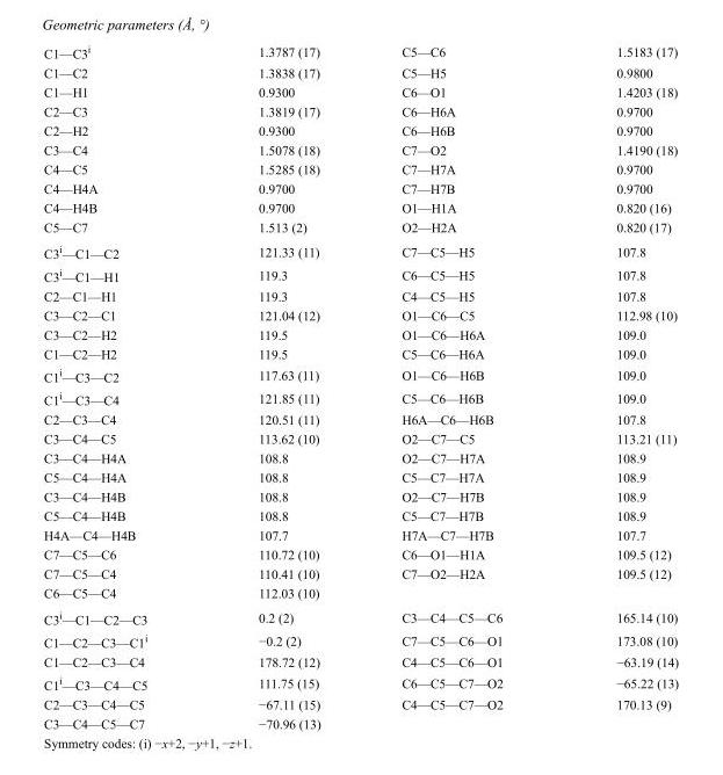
<table><tbody><tr><td>C1—C3<sup>i</sup></td><td>1.3787 (17)</td><td>C5—C6</td><td>1.5183 (17)</td></tr><tr><td>C1—C2</td><td>1.3838 (17)</td><td>C5—H5</td><td>0.9800</td></tr><tr><td>C1—H1</td><td>0.9300</td><td>C6—O1</td><td>1.4203 (18)</td></tr><tr><td>C2—C3</td><td>1.3819 (17)</td><td>C6—H6A</td><td>0.9700</td></tr><tr><td>C2—H2</td><td>0.9300</td><td>C6—H6B</td><td>0.9700</td></tr><tr><td>C3—C4</td><td>1.5078 (18)</td><td>C7—O2</td><td>1.4190 (18)</td></tr><tr><td>C4—C5</td><td>1.5285 (18)</td><td>C7—H7A</td><td>0.9700</td></tr><tr><td>C4—H4A</td><td>0.9700</td><td>C7—H7B</td><td>0.9700</td></tr><tr><td>C4—H4B</td><td>0.9700</td><td>O1—H1A</td><td>0.820 (16)</td></tr><tr><td>C5—C7</td><td>1.513 (2)</td><td>O2—H2A</td><td>0.820 (17)</td></tr><tr><td>C3<sup>i</sup>—C1—C2</td><td>121.33 (11)</td><td>C7—C5—H5</td><td>107.8</td></tr><tr><td>C3<sup>i</sup>—C1—H1</td><td>119.3</td><td>C6—C5—H5</td><td>107.8</td></tr><tr><td>C2—C1—H1</td><td>119.3</td><td>C4—C5—H5</td><td>107.8</td></tr><tr><td>C3—C2—C1</td><td>121.04 (12)</td><td>O1—C6—C5</td><td>112.98 (10)</td></tr><tr><td>C3—C2—H2</td><td>119.5</td><td>O1—C6—H6A</td><td>109.0</td></tr><tr><td>C1—C2—H2</td><td>119.5</td><td>C5—C6—H6A</td><td>109.0</td></tr><tr><td>C1<sup>i</sup>—C3—C2</td><td>117.63 (11)</td><td>O1—C6—H6B</td><td>109.0</td></tr><tr><td>C1<sup>i</sup>—C3—C4</td><td>121.85 (11)</td><td>C5—C6—H6B</td><td>109.0</td></tr><tr><td>C2—C3—C4</td><td>120.51 (11)</td><td>H6A—C6—H6B</td><td>107.8</td></tr><tr><td>C3—C4—C5</td><td>113.62 (10)</td><td>O2—C7—C5</td><td>113.21 (11)</td></tr><tr><td>C3—C4—H4A</td><td>108.8</td><td>O2—C7—H7A</td><td>108.9</td></tr><tr><td>C5—C4—H4A</td><td>108.8</td><td>C5—C7—H7A</td><td>108.9</td></tr><tr><td>C3—C4—H4B</td><td>108.8</td><td>O2—C7—H7B</td><td>108.9</td></tr><tr><td>C5—C4—H4B</td><td>108.8</td><td>C5—C7—H7B</td><td>108.9</td></tr><tr><td>H4A—C4—H4B</td><td>107.7</td><td>H7A—C7—H7B</td><td>107.7</td></tr><tr><td>C7—C5—C6</td><td>110.72 (10)</td><td>C6—O1—H1A</td><td>109.5 (12)</td></tr><tr><td>C7—C5—C4</td><td>110.41 (10)</td><td>C7—O2—H2A</td><td>109.5 (12)</td></tr><tr><td>C6—C5—C4</td><td>112.03 (10)</td><td></td><td></td></tr><tr><td>C3<sup>i</sup>—C1—C2—C3</td><td>0.2 (2)</td><td>C3—C4—C5—C6</td><td>165.14 (10)</td></tr><tr><td>C1—C2—C3—C1<sup>i</sup></td><td>−0.2 (2)</td><td>C7—C5—C6—O1</td><td>173.08 (10)</td></tr><tr><td>C1—C2—C3—C4</td><td>178.72 (12)</td><td>C4—C5—C6—O1</td><td>−63.19 (14)</td></tr><tr><td>C1<sup>i</sup>—C3—C4—C5</td><td>111.75 (15)</td><td>C6—C5—C7—O2</td><td>−65.22 (13)</td></tr><tr><td>C2—C3—C4—C5</td><td>−67.11 (15)</td><td>C4—C5—C7—O2</td><td>170.13 (9)</td></tr><tr><td>C3—C4—C5—C7</td><td>−70.96 (13)</td><td></td><td></td></tr></tbody></table>